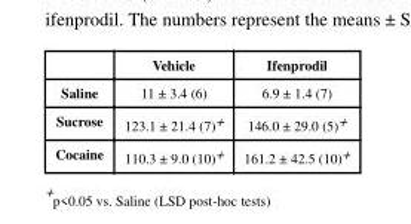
<table><thead><tr><td></td><td>Vehicle</td><td>Ifenprodil</td></tr></thead><tbody><tr><td>Saline</td><td>11 ± 3.4 (6)</td><td>6.9 ± 1.4 (7)</td></tr><tr><td>Sucrose</td><td>123.1 ± 21.4 (7)+</td><td>146.0 ± 29.0 (5)+</td></tr><tr><td>Cocaine</td><td>110.3 ± 9.0 (10)+</td><td>161.2 ± 42.5 (10)+</td></tr></tbody></table>